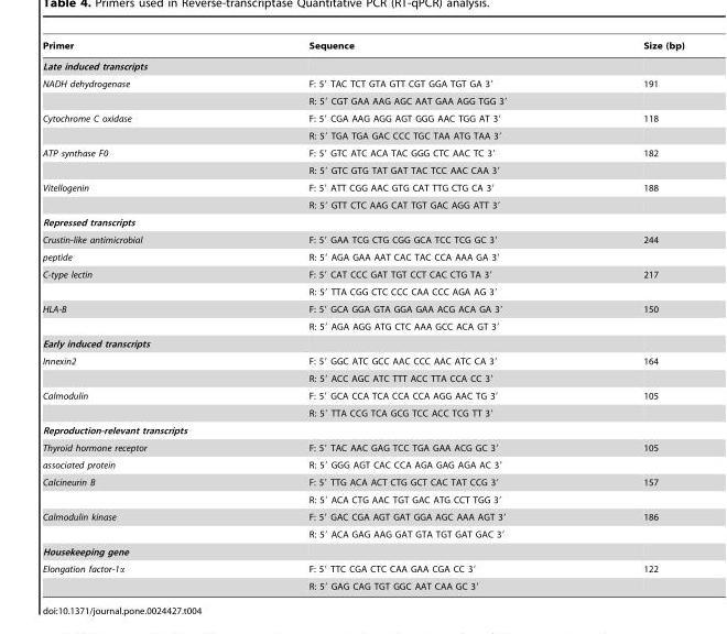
<table><thead><tr><td>Primer</td><td>Sequence</td><td>Size (bp)</td></tr></thead><tbody><tr><td colspan="3">Late induced transcripts</td></tr><tr><td rowspan="2">NADH dehydrogenase</td><td>F: 5′ TAC TCT GTA GTT CGT GGA TGT GA 3′</td><td>191</td></tr><tr><td>R: 5′ CGT GAA AAG AGC AAT GAA AGG TGG 3′</td><td></td></tr><tr><td rowspan="2">Cytochrome C oxidase</td><td>F: 5′ CGA AAG AGG AGT GGG AAC TGG AT 3′</td><td>118</td></tr><tr><td>R: 5′ TGA TGA GAC CCC TGC TAA ATG TAA 3′</td><td></td></tr><tr><td rowspan="2">ATP synthase F0</td><td>F: 5′ GTC ATC ACA TAC GGG CTC AAC TC 3′</td><td>182</td></tr><tr><td>R: 5′ GTC GTG TAT GAT TAC TCC AAC CAA 3′</td><td></td></tr><tr><td rowspan="2">Vitellogenin</td><td>F: 5′ ATT CGG AAC GTG CAT TTG CTG CA 3′</td><td>188</td></tr><tr><td>R: 5′ GTT CTC AAG CAT TGT GAC AGG ATT 3′</td><td></td></tr><tr><td colspan="3">Repressed transcripts</td></tr><tr><td>Crustin-like antimicrobial</td><td>F: 5′ GAA TCG CTG CGG GCA TCC TCG GC 3′</td><td>244</td></tr><tr><td>peptide</td><td>R: 5′ AGA GAA AAT CAC TAC CCA AAA GA 3′</td><td></td></tr><tr><td rowspan="2">C-type lectin</td><td>F: 5′ CAT CCC GAT TGT CCT CAC CTG TA 3′</td><td>217</td></tr><tr><td>R: 5′ TTA CGG CTC CCC CAA CCC AGA AG 3′</td><td></td></tr><tr><td rowspan="2">HLA-B</td><td>F: 5′ GCA GGA GTA GGA GAA ACG ACA GA 3′</td><td>150</td></tr><tr><td>R: 5′ AGA AGG ATG CTC AAA GCC ACA GT 3′</td><td></td></tr><tr><td colspan="3">Early induced transcripts</td></tr><tr><td rowspan="2">Innexin2</td><td>F: 5′ GGC ATC GCC AAC CCC AAC ATC CA 3′</td><td>164</td></tr><tr><td>R: 5′ ACC AGC ATC TTT ACC TTA CCA CC 3′</td><td></td></tr><tr><td rowspan="2">Calmodulin</td><td>F: 5′ GCA CCA TCA CCA CCA AGG AAC TG 3′</td><td>105</td></tr><tr><td>R: 5′ TTA CCG TCA GCG TCC ACC TCG TT 3′</td><td></td></tr><tr><td colspan="3">Reproduction-relevant transcripts</td></tr><tr><td>Thyroid hormone receptor</td><td>F: 5′ TAC AAC GAG TCC TGA GAA ACG GC 3′</td><td>105</td></tr><tr><td>associated protein</td><td>R: 5′ GGG AGT CAC CCA AGA GAG AGA AC 3′</td><td></td></tr><tr><td rowspan="2">Calcineurin B</td><td>F: 5′ TTG ACA ACT CTG GCT CAC TAT CCG 3′</td><td>157</td></tr><tr><td>R: 5′ ACA CTG AAC TGT GAC ATG CCT TGG 3′</td><td></td></tr><tr><td rowspan="2">Calmodulin kinase</td><td>F: 5′ GAC CGA AGT GAT GGA AGC AAA AGT 3′</td><td>186</td></tr><tr><td>R: 5′ ACA GAG AAG GAT GTA TGT GAT GAC 3′</td><td></td></tr><tr><td colspan="3">Housekeeping gene</td></tr><tr><td rowspan="2">Elongation factor-1α</td><td>F: 5′ TTC CGA CTC CAA GAA CGA CC 3′</td><td>122</td></tr><tr><td>R: 5′ GAG CAG TGT GGC AAT CAA GC 3′</td><td></td></tr></tbody></table>